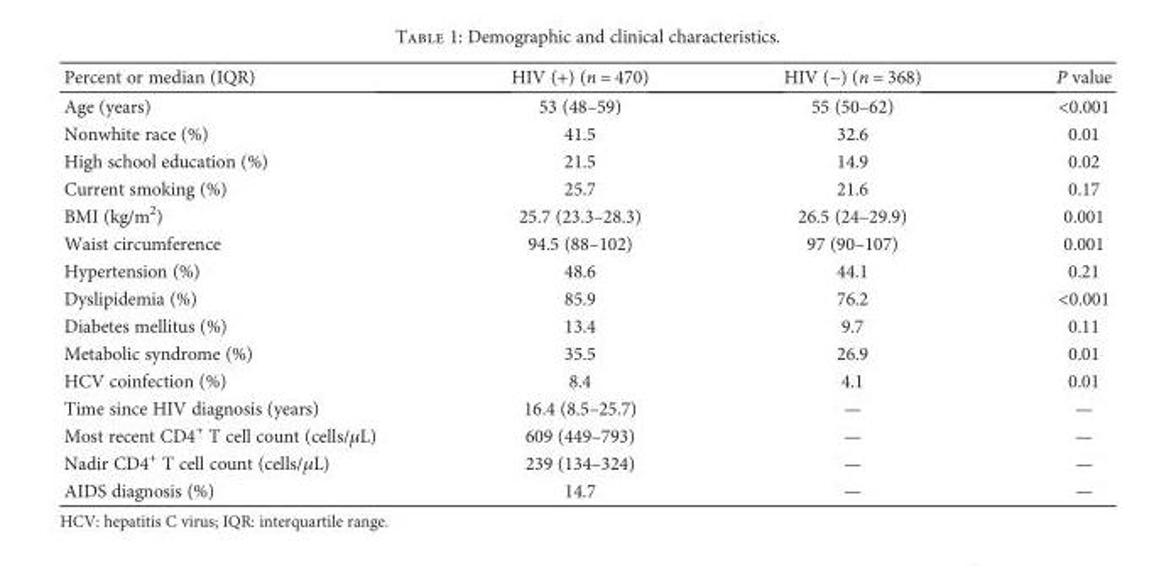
<table><thead><tr><td>Percent or median (IQR)</td><td>HIV (+) (n = 470)</td><td>HIV (−) (n = 368)</td><td>P value</td></tr></thead><tbody><tr><td>Age (years)</td><td>53 (48–59)</td><td>55 (50–62)</td><td>&lt;0.001</td></tr><tr><td>Nonwhite race (%)</td><td>41.5</td><td>32.6</td><td>0.01</td></tr><tr><td>High school education (%)</td><td>21.5</td><td>14.9</td><td>0.02</td></tr><tr><td>Current smoking (%)</td><td>25.7</td><td>21.6</td><td>0.17</td></tr><tr><td>BMI (kg/m<sup>2</sup>)</td><td>25.7 (23.3–28.3)</td><td>26.5 (24–29.9)</td><td>0.001</td></tr><tr><td>Waist circumference</td><td>94.5 (88–102)</td><td>97 (90–107)</td><td>0.001</td></tr><tr><td>Hypertension (%)</td><td>48.6</td><td>44.1</td><td>0.21</td></tr><tr><td>Dyslipidemia (%)</td><td>85.9</td><td>76.2</td><td>&lt;0.001</td></tr><tr><td>Diabetes mellitus (%)</td><td>13.4</td><td>9.7</td><td>0.11</td></tr><tr><td>Metabolic syndrome (%)</td><td>35.5</td><td>26.9</td><td>0.01</td></tr><tr><td>HCV coinfection (%)</td><td>8.4</td><td>4.1</td><td>0.01</td></tr><tr><td>Time since HIV diagnosis (years)</td><td>16.4 (8.5–25.7)</td><td>—</td><td>—</td></tr><tr><td>Most recent CD4<sup>+</sup> T cell count (cells/μL)</td><td>609 (449–793)</td><td>—</td><td>—</td></tr><tr><td>Nadir CD4<sup>+</sup> T cell count (cells/μL)</td><td>239 (134–324)</td><td>—</td><td>—</td></tr><tr><td>AIDS diagnosis (%)</td><td>14.7</td><td>—</td><td>—</td></tr></tbody></table>